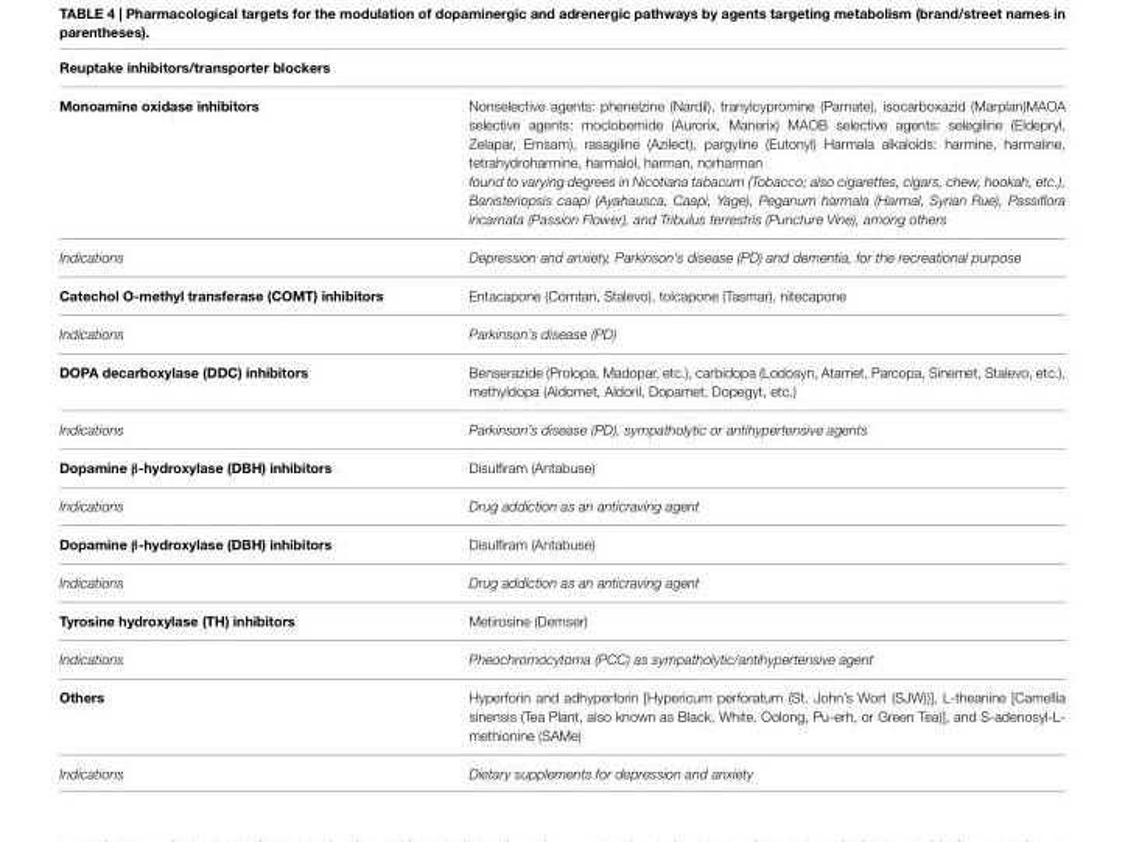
<table><tbody><tr><td colspan="2">Reuptake inhibitors/transporter blockers</td></tr><tr><td>Monoamine oxidase inhibitors</td><td>Nonselective agents: phenelzine (Nardil), tranylcypromine (Parnate), isocarboxazid (Marplan)MAOA selective agents: moclobemide (Aurorix, Manerix) MAOB selective agents: selegiline (Eldepryl, Zelapar, Emsam), rasagiline (Azilect), pargyline (Eutonyl) Harmala alkaloids: harmine, harmaline, tetrahydroharmine, harmalol, harman, norharman found to varying degrees in Nicotiana tabacum (Tobacco; also cigarettes, cigars, chew, hookah, etc.), Banisteriopsis caapi (Ayahausca, Caapi, Yage), Peganum harmala (Harmal, Syrian Rue), Passiflora incarnata (Passion Flower), and Tribulus terrestris (Puncture Vine), among others</td></tr><tr><td>Indications</td><td>Depression and anxiety, Parkinson’s disease (PD) and dementia, for the recreational purpose</td></tr><tr><td>Catechol O-methyl transferase (COMT) inhibitors</td><td>Entacapone (Comtan, Stalevo), tolcapone (Tasmar), nitecapone</td></tr><tr><td>Indications</td><td>Parkinson’s disease (PD)</td></tr><tr><td>DOPA decarboxylase (DDC) inhibitors</td><td>Benserazide (Prolopa, Madopar, etc.), carbidopa (Lodosyn, Atamet, Parcopa, Sinemet, Stalevo, etc.), methyldopa (Aldomet, Aldoril, Dopamet, Dopegyt, etc.)</td></tr><tr><td>Indications</td><td>Parkinson’s disease (PD), sympatholytic or antihypertensive agents</td></tr><tr><td>Dopamine β-hydroxylase (DBH) inhibitors</td><td>Disulfiram (Antabuse)</td></tr><tr><td>Indications</td><td>Drug addiction as an anticraving agent</td></tr><tr><td>Dopamine β-hydroxylase (DBH) inhibitors</td><td>Disulfiram (Antabuse)</td></tr><tr><td>Indications</td><td>Drug addiction as an anticraving agent</td></tr><tr><td>Tyrosine hydroxylase (TH) inhibitors</td><td>Metirosine (Demser)</td></tr><tr><td>Indications</td><td>Pheochromocytoma (PCC) as sympatholytic/antihypertensive agent</td></tr><tr><td>Others</td><td>Hyperforin and adhyperforin [Hypericum perforatum (St. John’s Wort (SJW))], L-theanine [Camellia sinensis (Tea Plant, also known as Black, White, Oolong, Pu-erh, or Green Tea)], and S-adenosyl-L- methionine (SAMe)</td></tr><tr><td>Indications</td><td>Dietary supplements for depression and anxiety</td></tr></tbody></table>